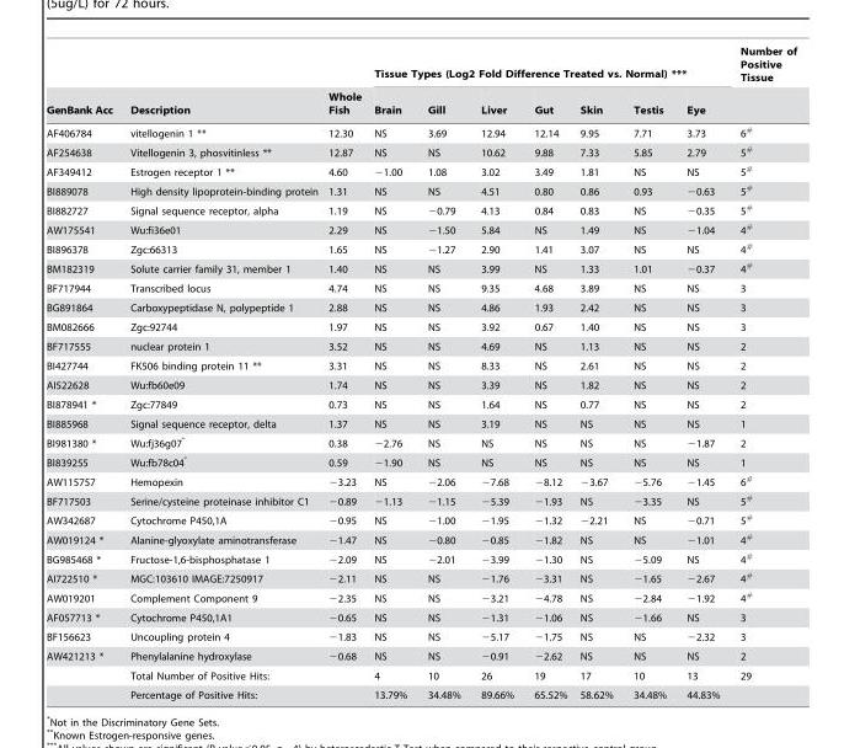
<table><thead><tr><td rowspan="2">GenBank Acc</td><td rowspan="2">Description</td><td rowspan="2">Whole Fish</td><td colspan="7">Tissue Types (Log2 Fold Difference Treated vs. Normal) ***</td><td rowspan="2">Number of Positive Tissue</td></tr><tr><td>Brain</td><td>Gill</td><td>Liver</td><td>Gut</td><td>Skin</td><td>Testis</td><td>Eye</td></tr></thead><tbody><tr><td>AF406784</td><td>vitellogenin 1 **</td><td>12.30</td><td>NS</td><td>3.69</td><td>12.94</td><td>12.14</td><td>9.95</td><td>7.71</td><td>3.73</td><td>6#</td></tr><tr><td>AF254638</td><td>Vitellogenin 3, phosvitinless **</td><td>12.87</td><td>NS</td><td>NS</td><td>10.62</td><td>9.88</td><td>7.33</td><td>5.85</td><td>2.79</td><td>5#</td></tr><tr><td>AF349412</td><td>Estrogen receptor 1 **</td><td>4.60</td><td>−1.00</td><td>1.08</td><td>3.02</td><td>3.49</td><td>1.81</td><td>NS</td><td>NS</td><td>5#</td></tr><tr><td>BI889078</td><td>High density lipoprotein-binding protein</td><td>1.31</td><td>NS</td><td>NS</td><td>4.51</td><td>0.80</td><td>0.86</td><td>0.93</td><td>−0.63</td><td>5#</td></tr><tr><td>BI882727</td><td>Signal sequence receptor, alpha</td><td>1.19</td><td>NS</td><td>−0.79</td><td>4.13</td><td>0.84</td><td>0.83</td><td>NS</td><td>−0.35</td><td>5#</td></tr><tr><td>AW175541</td><td>Wu:fi36e01</td><td>2.29</td><td>NS</td><td>−1.50</td><td>5.84</td><td>NS</td><td>1.49</td><td>NS</td><td>−1.04</td><td>4#</td></tr><tr><td>BI896378</td><td>Zgc:66313</td><td>1.65</td><td>NS</td><td>−1.27</td><td>2.90</td><td>1.41</td><td>3.07</td><td>NS</td><td>NS</td><td>4#</td></tr><tr><td>BM182319</td><td>Solute carrier family 31, member 1</td><td>1.40</td><td>NS</td><td>NS</td><td>3.99</td><td>NS</td><td>1.33</td><td>1.01</td><td>−0.37</td><td>4#</td></tr><tr><td>BF717944</td><td>Transcribed locus</td><td>4.74</td><td>NS</td><td>NS</td><td>9.35</td><td>4.68</td><td>3.89</td><td>NS</td><td>NS</td><td>3</td></tr><tr><td>BG891864</td><td>Carboxypeptidase N, polypeptide 1</td><td>2.88</td><td>NS</td><td>NS</td><td>4.86</td><td>1.93</td><td>2.42</td><td>NS</td><td>NS</td><td>3</td></tr><tr><td>BM082666</td><td>Zgc:92744</td><td>1.97</td><td>NS</td><td>NS</td><td>3.92</td><td>0.67</td><td>1.40</td><td>NS</td><td>NS</td><td>3</td></tr><tr><td>BF717555</td><td>nuclear protein 1</td><td>3.52</td><td>NS</td><td>NS</td><td>4.69</td><td>NS</td><td>1.13</td><td>NS</td><td>NS</td><td>2</td></tr><tr><td>BI427744</td><td>FK506 binding protein 11 **</td><td>3.31</td><td>NS</td><td>NS</td><td>8.33</td><td>NS</td><td>2.61</td><td>NS</td><td>NS</td><td>2</td></tr><tr><td>AI522628</td><td>Wu:fb60e09</td><td>1.74</td><td>NS</td><td>NS</td><td>3.39</td><td>NS</td><td>1.82</td><td>NS</td><td>NS</td><td>2</td></tr><tr><td>BI878941 *</td><td>Zgc:77849</td><td>0.73</td><td>NS</td><td>NS</td><td>1.64</td><td>NS</td><td>0.77</td><td>NS</td><td>NS</td><td>2</td></tr><tr><td>BI885968</td><td>Signal sequence receptor, delta</td><td>1.37</td><td>NS</td><td>NS</td><td>3.19</td><td>NS</td><td>NS</td><td>NS</td><td>NS</td><td>1</td></tr><tr><td>BI981380 *</td><td>Wu:fj36g07ˆ</td><td>0.38</td><td>−2.76</td><td>NS</td><td>NS</td><td>NS</td><td>NS</td><td>NS</td><td>−1.87</td><td>2</td></tr><tr><td>BI839255</td><td>Wu:fb78c04ˆ</td><td>0.59</td><td>−1.90</td><td>NS</td><td>NS</td><td>NS</td><td>NS</td><td>NS</td><td>NS</td><td>1</td></tr><tr><td>AW115757</td><td>Hemopexin</td><td>−3.23</td><td>NS</td><td>−2.06</td><td>−7.68</td><td>−8.12</td><td>−3.67</td><td>−5.76</td><td>−1.45</td><td>6#</td></tr><tr><td>BF717503</td><td>Serine/cysteine proteinase inhibitor C1</td><td>−0.89</td><td>−1.13</td><td>−1.15</td><td>−5.39</td><td>−1.93</td><td>NS</td><td>−3.35</td><td>NS</td><td>5#</td></tr><tr><td>AW342687</td><td>Cytochrome P450,1A</td><td>−0.95</td><td>NS</td><td>−1.00</td><td>−1.95</td><td>−1.32</td><td>−2.21</td><td>NS</td><td>−0.71</td><td>5#</td></tr><tr><td>AW019124 *</td><td>Alanine-glyoxylate aminotransferase</td><td>−1.47</td><td>NS</td><td>−0.80</td><td>−0.85</td><td>−1.82</td><td>NS</td><td>NS</td><td>−1.01</td><td>4#</td></tr><tr><td>BG985468 *</td><td>Fructose-1,6-bisphosphatase 1</td><td>−2.09</td><td>NS</td><td>−2.01</td><td>−3.99</td><td>−1.30</td><td>NS</td><td>−5.09</td><td>NS</td><td>4#</td></tr><tr><td>AI722510 *</td><td>MGC:103610 IMAGE:7250917</td><td>−2.11</td><td>NS</td><td>NS</td><td>−1.76</td><td>−3.31</td><td>NS</td><td>−1.65</td><td>−2.67</td><td>4#</td></tr><tr><td>AW019201</td><td>Complement Component 9</td><td>−2.35</td><td>NS</td><td>NS</td><td>−3.21</td><td>−4.78</td><td>NS</td><td>−2.84</td><td>−1.92</td><td>4#</td></tr><tr><td>AF057713 *</td><td>Cytochrome P450,1A1</td><td>−0.65</td><td>NS</td><td>NS</td><td>−1.31</td><td>−1.06</td><td>NS</td><td>−1.66</td><td>NS</td><td>3</td></tr><tr><td>BF156623</td><td>Uncoupling protein 4</td><td>−1.83</td><td>NS</td><td>NS</td><td>−5.17</td><td>−1.75</td><td>NS</td><td>NS</td><td>−2.32</td><td>3</td></tr><tr><td rowspan="3">AW421213 *</td><td>Phenylalanine hydroxylase</td><td>−0.68</td><td>NS</td><td>NS</td><td>−0.91</td><td>−2.62</td><td>NS</td><td>NS</td><td>NS</td><td>2</td></tr><tr><td>Total Number of Positive Hits:</td><td></td><td>4</td><td>10</td><td>26</td><td>19</td><td>17</td><td>10</td><td>13</td><td>29</td></tr><tr><td>Percentage of Positive Hits:</td><td></td><td>13.79%</td><td>34.48%</td><td>89.66%</td><td>65.52%</td><td>58.62%</td><td>34.48%</td><td>44.83%</td><td></td></tr></tbody></table>